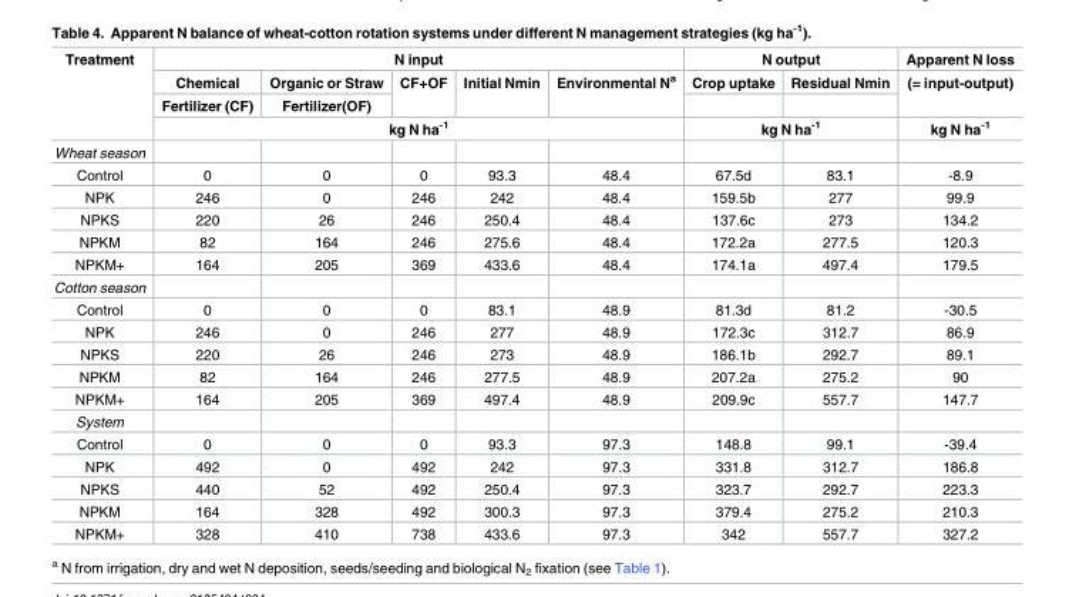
<table><thead><tr><td rowspan="4">Treatment</td><td colspan="5">N input</td><td colspan="2">N output</td><td rowspan="4">Apparent N loss (= input-output) kg N ha<sup>-1</sup></td></tr><tr><td rowspan="2">Chemical Fertilizer (CF)</td><td rowspan="2">Organic or Straw Fertilizer(OF)</td><td rowspan="2">CF+OF</td><td rowspan="2">Initial Nmin</td><td rowspan="2">Environmental N<sup>a</sup></td><td rowspan="2">Crop uptake</td><td rowspan="2">Residual Nmin</td></tr><tr></tr><tr><td colspan="5">kg N ha<sup>-1</sup></td><td colspan="2">kg N ha<sup>-1</sup></td></tr></thead><tbody><tr><td colspan="9">Wheat season</td></tr><tr><td>Control</td><td>0</td><td>0</td><td>0</td><td>93.3</td><td>48.4</td><td>67.5d</td><td>83.1</td><td>-8.9</td></tr><tr><td>NPK</td><td>246</td><td>0</td><td>246</td><td>242</td><td>48.4</td><td>159.5b</td><td>277</td><td>99.9</td></tr><tr><td>NPKS</td><td>220</td><td>26</td><td>246</td><td>250.4</td><td>48.4</td><td>137.6c</td><td>273</td><td>134.2</td></tr><tr><td>NPKM</td><td>82</td><td>164</td><td>246</td><td>275.6</td><td>48.4</td><td>172.2a</td><td>277.5</td><td>120.3</td></tr><tr><td>NPKM+</td><td>164</td><td>205</td><td>369</td><td>433.6</td><td>48.4</td><td>174.1a</td><td>497.4</td><td>179.5</td></tr><tr><td colspan="9">Cotton season</td></tr><tr><td>Control</td><td>0</td><td>0</td><td>0</td><td>83.1</td><td>48.9</td><td>81.3d</td><td>81.2</td><td>-30.5</td></tr><tr><td>NPK</td><td>246</td><td>0</td><td>246</td><td>277</td><td>48.9</td><td>172.3c</td><td>312.7</td><td>86.9</td></tr><tr><td>NPKS</td><td>220</td><td>26</td><td>246</td><td>273</td><td>48.9</td><td>186.1b</td><td>292.7</td><td>89.1</td></tr><tr><td>NPKM</td><td>82</td><td>164</td><td>246</td><td>277.5</td><td>48.9</td><td>207.2a</td><td>275.2</td><td>90</td></tr><tr><td>NPKM+</td><td>164</td><td>205</td><td>369</td><td>497.4</td><td>48.9</td><td>209.9c</td><td>557.7</td><td>147.7</td></tr><tr><td colspan="9">System</td></tr><tr><td>Control</td><td>0</td><td>0</td><td>0</td><td>93.3</td><td>97.3</td><td>148.8</td><td>99.1</td><td>-39.4</td></tr><tr><td>NPK</td><td>492</td><td>0</td><td>492</td><td>242</td><td>97.3</td><td>331.8</td><td>312.7</td><td>186.8</td></tr><tr><td>NPKS</td><td>440</td><td>52</td><td>492</td><td>250.4</td><td>97.3</td><td>323.7</td><td>292.7</td><td>223.3</td></tr><tr><td>NPKM</td><td>164</td><td>328</td><td>492</td><td>300.3</td><td>97.3</td><td>379.4</td><td>275.2</td><td>210.3</td></tr><tr><td>NPKM+</td><td>328</td><td>410</td><td>738</td><td>433.6</td><td>97.3</td><td>342</td><td>557.7</td><td>327.2</td></tr></tbody></table>